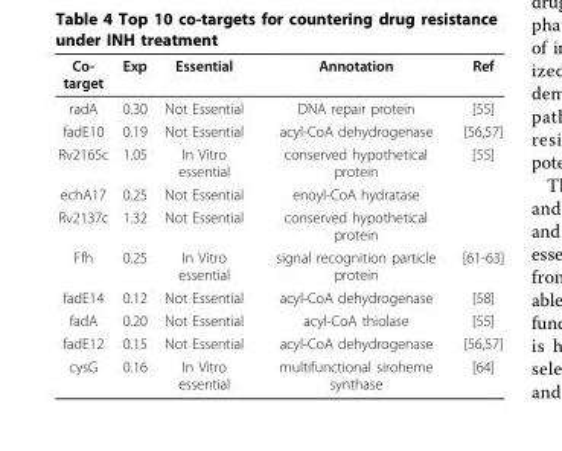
<table><thead><tr><td>Co- target</td><td>Exp</td><td>Essential</td><td>Annotation</td><td>Ref</td></tr></thead><tbody><tr><td>radA</td><td>0.30</td><td>Not Essential</td><td>DNA repair protein</td><td>[55]</td></tr><tr><td>fadE10</td><td>0.19</td><td>Not Essential</td><td>acyl-CoA dehydrogenase</td><td>[56,57]</td></tr><tr><td>Rv2165c</td><td>1.05</td><td>In Vitro essential</td><td>conserved hypothetical protein</td><td>[55]</td></tr><tr><td>echA17</td><td>0.25</td><td>Not Essential</td><td>enoyl-CoA hydratase</td><td></td></tr><tr><td>Rv2137c</td><td>1.32</td><td>Not Essential</td><td>conserved hypothetical protein</td><td></td></tr><tr><td>Ffh</td><td>0.25</td><td>In Vitro essential</td><td>signal recognition particle protein</td><td>[61-63]</td></tr><tr><td>fadE14</td><td>0.12</td><td>Not Essential</td><td>acyl-CoA dehydrogenase</td><td>[58]</td></tr><tr><td>fadA</td><td>0.20</td><td>Not Essential</td><td>acyl-CoA thiolase</td><td>[55]</td></tr><tr><td>fadE12</td><td>0.15</td><td>Not Essential</td><td>acyl-CoA dehydrogenase</td><td>[56,57]</td></tr><tr><td>cysG</td><td>0.16</td><td>In Vitro essential</td><td>multifunctional siroheme synthase</td><td>[64]</td></tr></tbody></table>